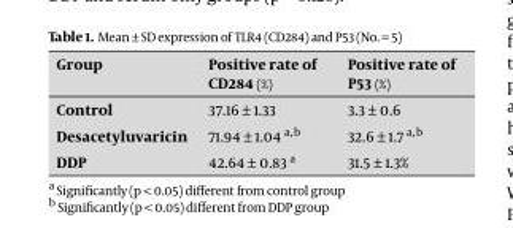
<table><thead><tr><td>Group</td><td>Positive rate of CD284 (%)</td><td>Positive rate of P53 (%)</td></tr></thead><tbody><tr><td>Control</td><td>37.16 ± 1.33</td><td>3.3 ± 0.6</td></tr><tr><td>Desacetyluvaricin</td><td>71.94 ± 1.04 a, b</td><td>32.6 ± 1.7 <sup>a</sup>, <sup>b</sup></td></tr><tr><td>DDP</td><td>42.64 ± 0.83 a</td><td>31.5 ± 1.3%</td></tr></tbody></table>